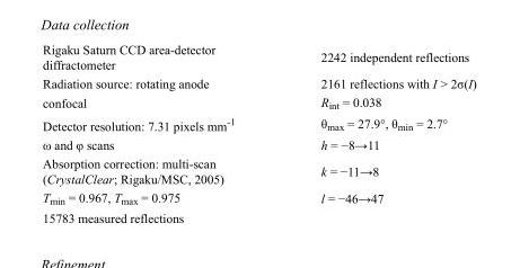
<table><tbody><tr><td>Rigaku Saturn CCD area-detector diffractometer</td><td>2242 independent reflections</td></tr><tr><td>Radiation source: rotating anode</td><td>2161 reflections with I &gt; 2σ(I)</td></tr><tr><td>confocal</td><td>R<sub>int</sub> = 0.038</td></tr><tr><td>Detector resolution: 7.31 pixels mm<sup>-1</sup></td><td>θ<sub>max</sub> = 27.9°, θ<sub>min</sub> = 2.7°</td></tr><tr><td>ω and φ scans</td><td>h = −8→11</td></tr><tr><td>Absorption correction: multi-scan (CrystalClear; Rigaku/MSC, 2005)</td><td>k = −11→8</td></tr><tr><td>T<sub>min</sub> = 0.967, T<sub>max</sub> = 0.975</td><td>l = −46→47</td></tr><tr><td>15783 measured reflections</td><td></td></tr></tbody></table>